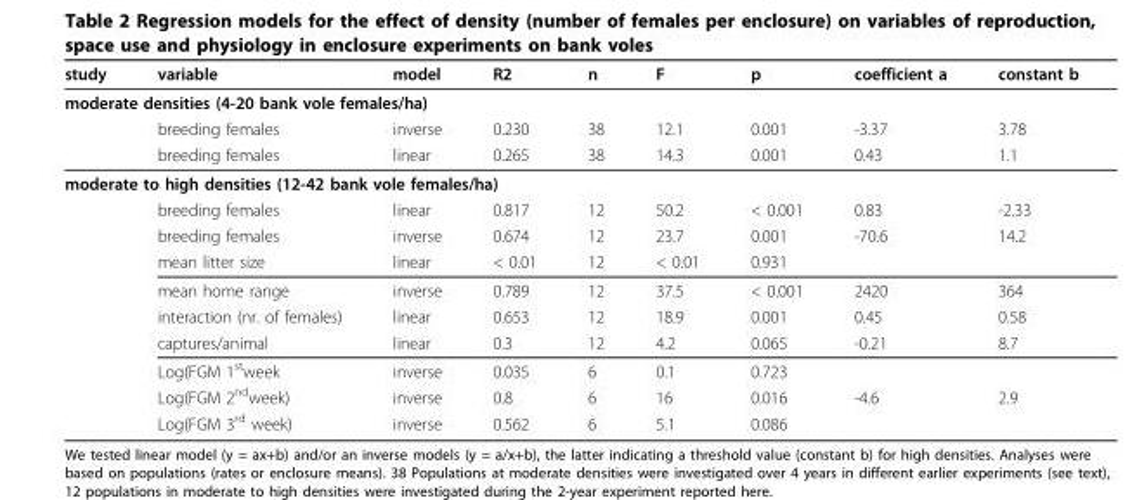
<table><thead><tr><td>study</td><td>variable</td><td>model</td><td>R2</td><td>n</td><td>F</td><td>p</td><td>coefficient a</td><td>constant b</td></tr></thead><tbody><tr><td colspan="9">moderate densities (4-20 bank vole females/ha)</td></tr><tr><td></td><td>breeding females</td><td>inverse</td><td>0.230</td><td>38</td><td>12.1</td><td>0.001</td><td>-3.37</td><td>3.78</td></tr><tr><td></td><td>breeding females</td><td>linear</td><td>0.265</td><td>38</td><td>14.3</td><td>0.001</td><td>0.43</td><td>1.1</td></tr><tr><td colspan="9">moderate to high densities (12-42 bank vole females/ha)</td></tr><tr><td></td><td>breeding females</td><td>linear</td><td>0.817</td><td>12</td><td>50.2</td><td>&lt; 0.001</td><td>0.83</td><td>-2.33</td></tr><tr><td></td><td>breeding females</td><td>inverse</td><td>0.674</td><td>12</td><td>23.7</td><td>0.001</td><td>-70.6</td><td>14.2</td></tr><tr><td></td><td>mean litter size</td><td>linear</td><td>&lt; 0.01</td><td>12</td><td>&lt; 0.01</td><td>0.931</td><td></td><td></td></tr><tr><td></td><td>mean home range</td><td>inverse</td><td>0.789</td><td>12</td><td>37.5</td><td>&lt; 0.001</td><td>2420</td><td>364</td></tr><tr><td></td><td>interaction (nr. of females)</td><td>linear</td><td>0.653</td><td>12</td><td>18.9</td><td>0.001</td><td>0.45</td><td>0.58</td></tr><tr><td></td><td>captures/animal</td><td>linear</td><td>0.3</td><td>12</td><td>4.2</td><td>0.065</td><td>-0.21</td><td>8.7</td></tr><tr><td></td><td>Log(FGM 1<sup>st</sup>week</td><td>inverse</td><td>0.035</td><td>6</td><td>0.1</td><td>0.723</td><td></td><td></td></tr><tr><td></td><td>Log(FGM 2<sup>nd</sup>week)</td><td>inverse</td><td>0.8</td><td>6</td><td>16</td><td>0.016</td><td>-4.6</td><td>2.9</td></tr><tr><td></td><td>Log(FGM 3<sup>rd</sup> week)</td><td>inverse</td><td>0.562</td><td>6</td><td>5.1</td><td>0.086</td><td></td><td></td></tr></tbody></table>